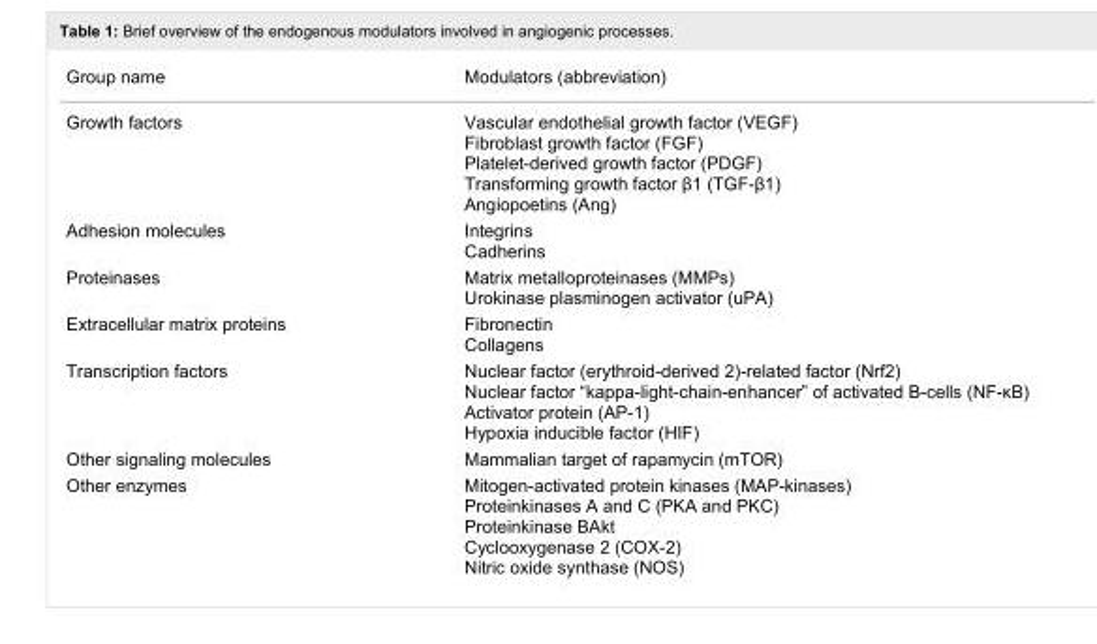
<table><tbody><tr><td>Group name</td><td>Modulators (abbreviation)</td></tr><tr><td>Growth factors</td><td>Vascular endothelial growth factor (VEGF) Fibroblast growth factor (FGF) Platelet-derived growth factor (PDGF) Transforming growth factor β1 (TGF-β1) Angiopoetins (Ang)</td></tr><tr><td>Adhesion molecules</td><td>Integrins Cadherins</td></tr><tr><td>Proteinases</td><td>Matrix metalloproteinases (MMPs) Urokinase plasminogen activator (uPA)</td></tr><tr><td>Extracellular matrix proteins</td><td>Fibronectin Collagens</td></tr><tr><td>Transcription factors</td><td>Nuclear factor (erythroid-derived 2)-related factor (Nrf2) Nuclear factor “kappa-light-chain-enhancer” of activated B-cells (NF-κB) Activator protein (AP-1) Hypoxia inducible factor (HIF)</td></tr><tr><td>Other signaling molecules</td><td>Mammalian target of rapamycin (mTOR)</td></tr><tr><td>Other enzymes</td><td>Mitogen-activated protein kinases (MAP-kinases) Proteinkinases A and C (PKA and PKC) Proteinkinase BAkt Cyclooxygenase 2 (COX-2) Nitric oxide synthase (NOS)</td></tr></tbody></table>